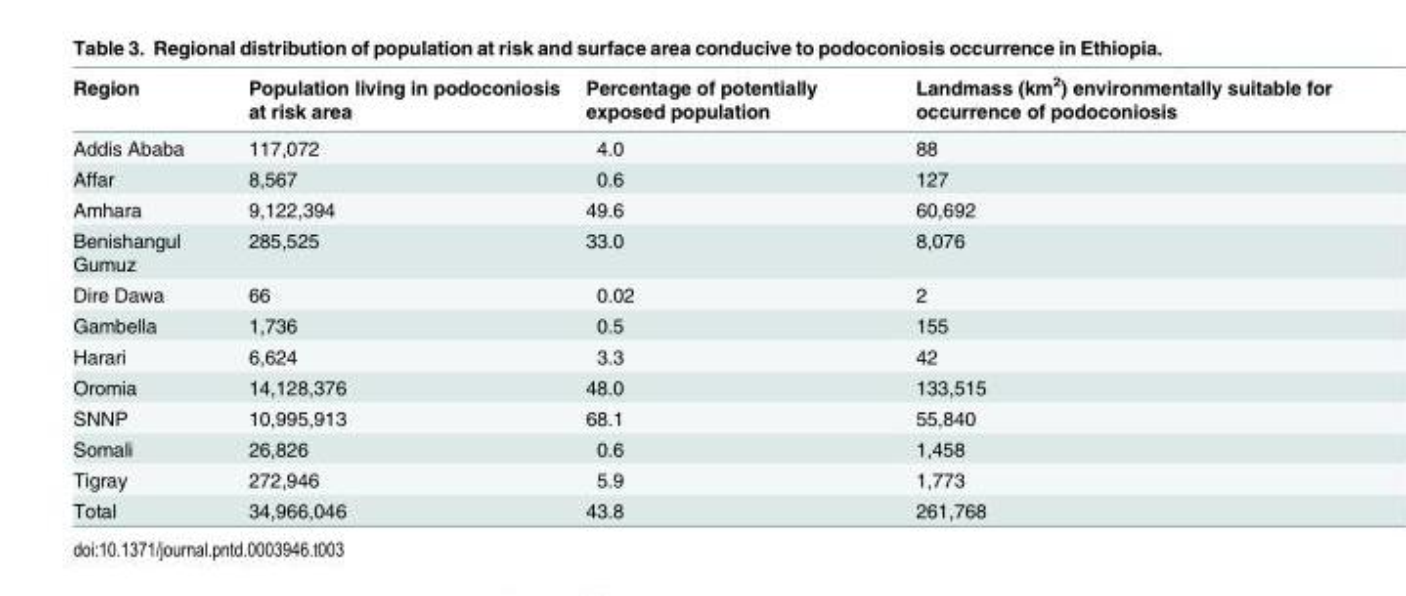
<table><thead><tr><td>Region</td><td>Population living in podoconiosis at risk area</td><td>Percentage of potentially exposed population</td><td>Landmass (km<sup>2</sup>) environmentally suitable for occurrence of podoconiosis</td></tr></thead><tbody><tr><td>Addis Ababa</td><td>117,072</td><td>4.0</td><td>88</td></tr><tr><td>Affar</td><td>8,567</td><td>0.6</td><td>127</td></tr><tr><td>Amhara</td><td>9,122,394</td><td>49.6</td><td>60,692</td></tr><tr><td>Benishangul Gumuz</td><td>285,525</td><td>33.0</td><td>8,076</td></tr><tr><td>Dire Dawa</td><td>66</td><td>0.02</td><td>2</td></tr><tr><td>Gambella</td><td>1,736</td><td>0.5</td><td>155</td></tr><tr><td>Harari</td><td>6,624</td><td>3.3</td><td>42</td></tr><tr><td>Oromia</td><td>14,128,376</td><td>48.0</td><td>133,515</td></tr><tr><td>SNNP</td><td>10,995,913</td><td>68.1</td><td>55,840</td></tr><tr><td>Somali</td><td>26,826</td><td>0.6</td><td>1,458</td></tr><tr><td>Tigray</td><td>272,946</td><td>5.9</td><td>1,773</td></tr><tr><td>Total</td><td>34,966,046</td><td>43.8</td><td>261,768</td></tr></tbody></table>